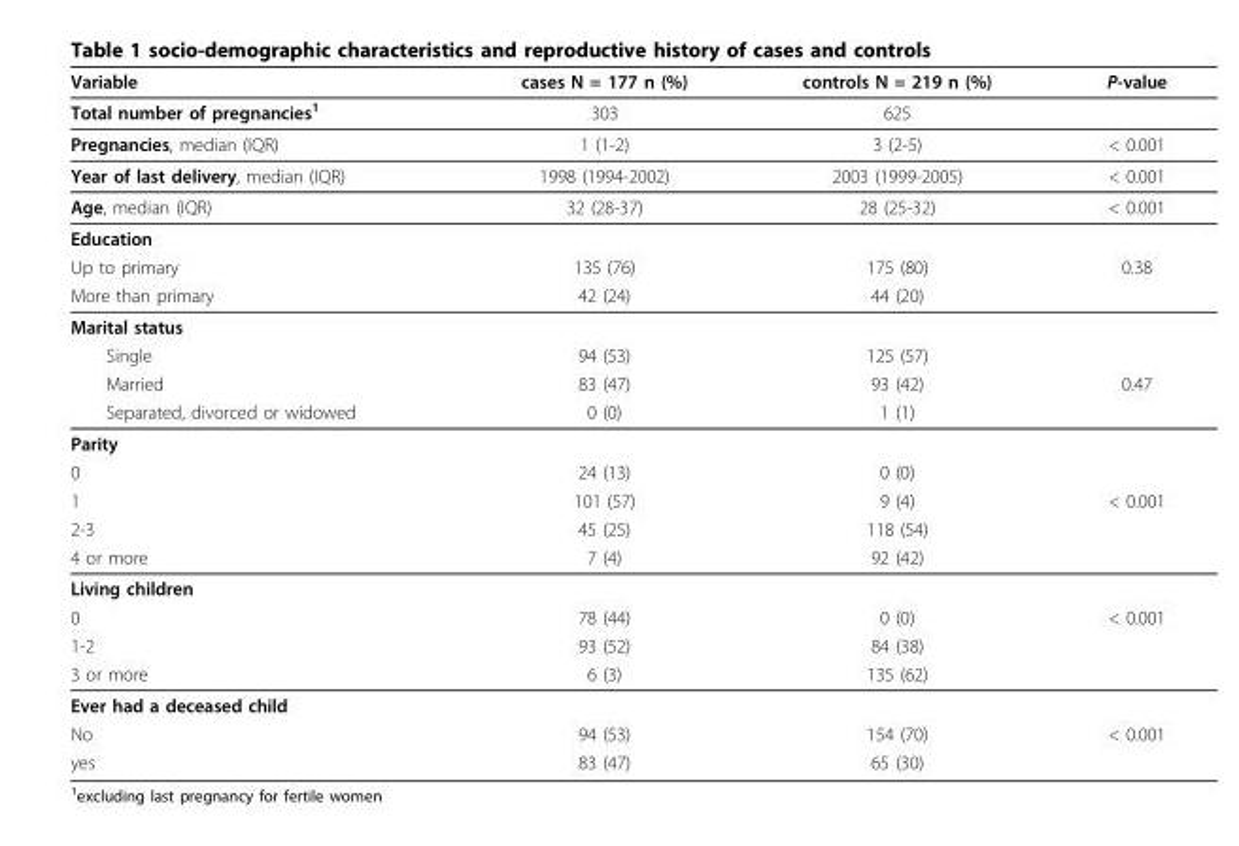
<table><thead><tr><td>Variable</td><td>cases N = 177 n (%)</td><td>controls N = 219 n (%)</td><td>P-value</td></tr></thead><tbody><tr><td>Total number of pregnancies<sup>1</sup></td><td>303</td><td>625</td><td></td></tr><tr><td>Pregnancies, median (IQR)</td><td>1 (1-2)</td><td>3 (2-5)</td><td>&lt; 0.001</td></tr><tr><td>Year of last delivery, median (IQR)</td><td>1998 (1994-2002)</td><td>2003 (1999-2005)</td><td>&lt; 0.001</td></tr><tr><td>Age, median (IQR)</td><td>32 (28-37)</td><td>28 (25-32)</td><td>&lt; 0.001</td></tr><tr><td colspan="4">Education</td></tr><tr><td>Up to primary</td><td>135 (76)</td><td>175 (80)</td><td>0.38</td></tr><tr><td>More than primary</td><td>42 (24)</td><td>44 (20)</td><td></td></tr><tr><td colspan="4">Marital status</td></tr><tr><td>Single</td><td>94 (53)</td><td>125 (57)</td><td></td></tr><tr><td>Married</td><td>83 (47)</td><td>93 (42)</td><td>0.47</td></tr><tr><td>Separated, divorced or widowed</td><td>0 (0)</td><td>1 (1)</td><td></td></tr><tr><td colspan="4">Parity</td></tr><tr><td>0</td><td>24 (13)</td><td>0 (0)</td><td></td></tr><tr><td>1</td><td>101 (57)</td><td>9 (4)</td><td>&lt; 0.001</td></tr><tr><td>2-3</td><td>45 (25)</td><td>118 (54)</td><td></td></tr><tr><td>4 or more</td><td>7 (4)</td><td>92 (42)</td><td></td></tr><tr><td colspan="4">Living children</td></tr><tr><td>0</td><td>78 (44)</td><td>0 (0)</td><td>&lt; 0.001</td></tr><tr><td>1-2</td><td>93 (52)</td><td>84 (38)</td><td></td></tr><tr><td>3 or more</td><td>6 (3)</td><td>135 (62)</td><td></td></tr><tr><td colspan="4">Ever had a deceased child</td></tr><tr><td>No</td><td>94 (53)</td><td>154 (70)</td><td>&lt; 0.001</td></tr><tr><td>yes</td><td>83 (47)</td><td>65 (30)</td><td></td></tr></tbody></table>